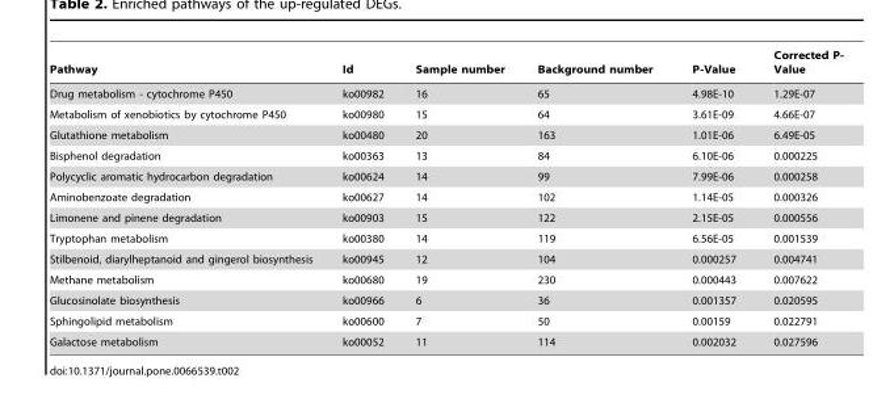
<table><thead><tr><td>Pathway</td><td>Id</td><td>Sample number</td><td>Background number</td><td>P-Value</td><td>Corrected P- Value</td></tr></thead><tbody><tr><td>Drug metabolism - cytochrome P450</td><td>ko00982</td><td>16</td><td>65</td><td>4.98E-10</td><td>1.29E-07</td></tr><tr><td>Metabolism of xenobiotics by cytochrome P450</td><td>ko00980</td><td>15</td><td>64</td><td>3.61E-09</td><td>4.66E-07</td></tr><tr><td>Glutathione metabolism</td><td>ko00480</td><td>20</td><td>163</td><td>1.01E-06</td><td>6.49E-05</td></tr><tr><td>Bisphenol degradation</td><td>ko00363</td><td>13</td><td>84</td><td>6.10E-06</td><td>0.000225</td></tr><tr><td>Polycyclic aromatic hydrocarbon degradation</td><td>ko00624</td><td>14</td><td>99</td><td>7.99E-06</td><td>0.000258</td></tr><tr><td>Aminobenzoate degradation</td><td>ko00627</td><td>14</td><td>102</td><td>1.14E-05</td><td>0.000326</td></tr><tr><td>Limonene and pinene degradation</td><td>ko00903</td><td>15</td><td>122</td><td>2.15E-05</td><td>0.000556</td></tr><tr><td>Tryptophan metabolism</td><td>ko00380</td><td>14</td><td>119</td><td>6.56E-05</td><td>0.001539</td></tr><tr><td>Stilbenoid, diarylheptanoid and gingerol biosynthesis</td><td>ko00945</td><td>12</td><td>104</td><td>0.000257</td><td>0.004741</td></tr><tr><td>Methane metabolism</td><td>ko00680</td><td>19</td><td>230</td><td>0.000443</td><td>0.007622</td></tr><tr><td>Glucosinolate biosynthesis</td><td>ko00966</td><td>6</td><td>36</td><td>0.001357</td><td>0.020595</td></tr><tr><td>Sphingolipid metabolism</td><td>ko00600</td><td>7</td><td>50</td><td>0.00159</td><td>0.022791</td></tr><tr><td>Galactose metabolism</td><td>ko00052</td><td>11</td><td>114</td><td>0.002032</td><td>0.027596</td></tr></tbody></table>